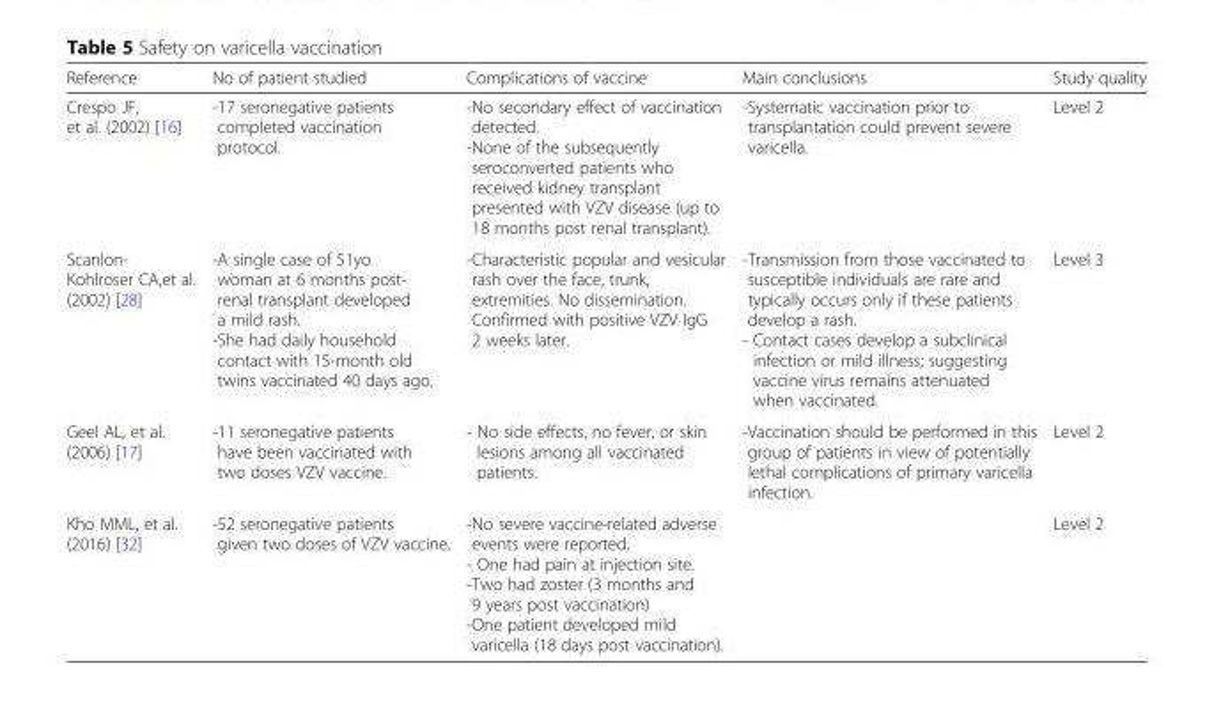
<table><thead><tr><td>Reference</td><td>No of patient studied</td><td>Complications of vaccine</td><td>Main conclusions</td><td>Study quality</td></tr></thead><tbody><tr><td>Crespo JF, et al. (2002) [16]</td><td>-17 seronegative patients completed vaccination protocol.</td><td>-No secondary effect of vaccination detected. -None of the subsequently seroconverted patients who received kidney transplant presented with VZV disease (up to 18 months post renal transplant).</td><td>-Systematic vaccination prior to transplantation could prevent severe varicella.</td><td>Level 2</td></tr><tr><td>Scanlon- Kohlroser CA,et al. (2002) [28]</td><td>-A single case of 51yo woman at 6 months post- renal transplant developed a mild rash. -She had daily household contact with 15-month old twins vaccinated 40 days ago.</td><td>-Characteristic popular and vesicular rash over the face, trunk, extremities. No dissemination. Confirmed with positive VZV IgG 2 weeks later.</td><td>-Transmission from those vaccinated to susceptible individuals are rare and typically occurs only if these patients develop a rash. - Contact cases develop a subclinical infection or mild illness; suggesting vaccine virus remains attenuated when vaccinated.</td><td>Level 3</td></tr><tr><td>Geel AL, et al. (2006) [17]</td><td>-11 seronegative patients have been vaccinated with two doses VZV vaccine.</td><td>- No side effects, no fever, or skin lesions among all vaccinated patients.</td><td>-Vaccination should be performed in this group of patients in view of potentially lethal complications of primary varicella infection.</td><td>Level 2</td></tr><tr><td>Kho MML, et al. (2016) [32]</td><td>-52 seronegative patients given two doses of VZV vaccine.</td><td>-No severe vaccine-related adverse events were reported. - One had pain at injection site. -Two had zoster (3 months and 9 years post vaccination) -One patient developed mild varicella (18 days post vaccination).</td><td></td><td>Level 2</td></tr></tbody></table>